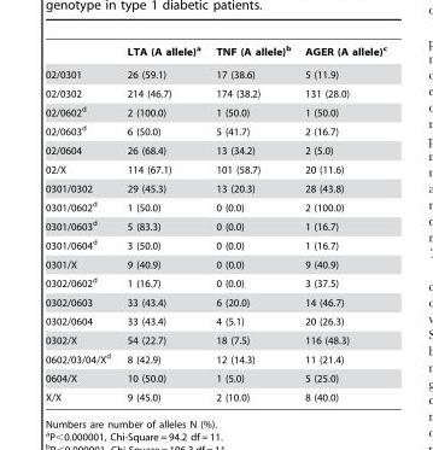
<table><thead><tr><td></td><td>LTA (A allele)<sup>a</sup></td><td>TNF (A allele)<sup>b</sup></td><td>AGER (A allele)<sup>c</sup></td></tr></thead><tbody><tr><td>02/0301</td><td>26 (59.1)</td><td>17 (38.6)</td><td>5 (11.9)</td></tr><tr><td>02/0302</td><td>214 (46.7)</td><td>174 (38.2)</td><td>131 (28.0)</td></tr><tr><td>02/0602<sup>d</sup></td><td>2 (100.0)</td><td>1 (50.0)</td><td>1 (50.0)</td></tr><tr><td>02/0603<sup>d</sup></td><td>6 (50.0)</td><td>5 (41.7)</td><td>2 (16.7)</td></tr><tr><td>02/0604</td><td>26 (68.4)</td><td>13 (34.2)</td><td>2 (5.0)</td></tr><tr><td>02/X</td><td>114 (67.1)</td><td>101 (58.7)</td><td>20 (11.6)</td></tr><tr><td>0301/0302</td><td>29 (45.3)</td><td>13 (20.3)</td><td>28 (43.8)</td></tr><tr><td>0301/0602<sup>d</sup></td><td>1 (50.0)</td><td>0 (0.0)</td><td>2 (100.0)</td></tr><tr><td>0301/0603<sup>d</sup></td><td>5 (83.3)</td><td>0 (0.0)</td><td>1 (16.7)</td></tr><tr><td>0301/0604<sup>d</sup></td><td>3 (50.0)</td><td>0 (0.0)</td><td>1 (16.7)</td></tr><tr><td>0301/X</td><td>9 (40.9)</td><td>0 (0.0)</td><td>9 (40.9)</td></tr><tr><td>0302/0602<sup>d</sup></td><td>1 (16.7)</td><td>0 (0.0)</td><td>3 (37.5)</td></tr><tr><td>0302/0603</td><td>33 (43.4)</td><td>6 (20.0)</td><td>14 (46.7)</td></tr><tr><td>0302/0604</td><td>33 (43.4)</td><td>4 (5.1)</td><td>20 (26.3)</td></tr><tr><td>0302/X</td><td>54 (22.7)</td><td>18 (7.5)</td><td>116 (48.3)</td></tr><tr><td>0602/03/04/X<sup>d</sup></td><td>8 (42.9)</td><td>12 (14.3)</td><td>11 (21.4)</td></tr><tr><td>0604/X</td><td>10 (50.0)</td><td>1 (5.0)</td><td>5 (25.0)</td></tr><tr><td>X/X</td><td>9 (45.0)</td><td>2 (10.0)</td><td>8 (40.0)</td></tr></tbody></table>